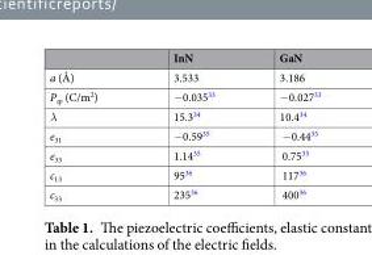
<table><thead><tr><td></td><td>InN</td><td>GaN</td></tr></thead><tbody><tr><td>a (Å)</td><td>3.533</td><td>3.186</td></tr><tr><td>P<sub>sp</sub> (C/m<sup>2</sup>)</td><td>−0.035<sup>33</sup></td><td>−0.027<sup>33</sup></td></tr><tr><td>λ</td><td>15.3<sup>34</sup></td><td>10.4<sup>34</sup></td></tr><tr><td>e<sub>31</sub></td><td>−0.59<sup>35</sup></td><td>−0.44<sup>35</sup></td></tr><tr><td>e<sub>33</sub></td><td>1.14<sup>35</sup></td><td>0.75<sup>35</sup></td></tr><tr><td>c<sub>13</sub></td><td>95<sup>36</sup></td><td>117<sup>36</sup></td></tr><tr><td>c<sub>33</sub></td><td>235<sup>36</sup></td><td>400<sup>36</sup></td></tr></tbody></table>